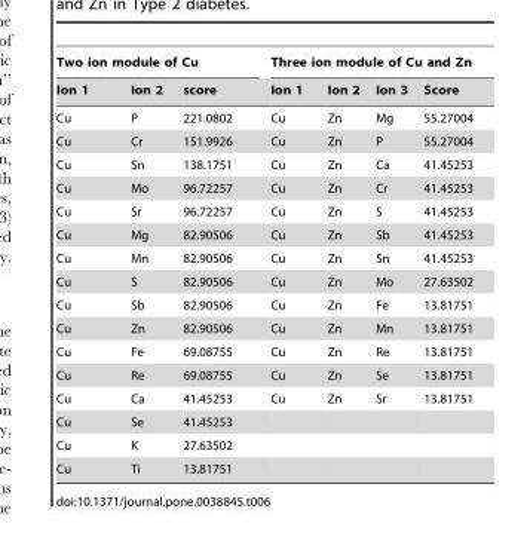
<table><thead><tr><td colspan="3">Two ion module of Cu</td><td colspan="4">Three ion module of Cu and Zn</td></tr><tr><td>Ion 1</td><td>Ion 2</td><td>score</td><td>Ion 1</td><td>Ion 2</td><td>Ion 3</td><td>Score</td></tr></thead><tbody><tr><td>Cu</td><td>P</td><td>221.0802</td><td>Cu</td><td>Zn</td><td>Mg</td><td>55.27004</td></tr><tr><td>Cu</td><td>Cr</td><td>151.9926</td><td>Cu</td><td>Zn</td><td>P</td><td>55.27004</td></tr><tr><td>Cu</td><td>Sn</td><td>138.1751</td><td>Cu</td><td>Zn</td><td>Ca</td><td>41.45253</td></tr><tr><td>Cu</td><td>Mo</td><td>96.72257</td><td>Cu</td><td>Zn</td><td>Cr</td><td>41.45253</td></tr><tr><td>Cu</td><td>Sr</td><td>96.72257</td><td>Cu</td><td>Zn</td><td>S</td><td>41.45253</td></tr><tr><td>Cu</td><td>Mg</td><td>82.90506</td><td>Cu</td><td>Zn</td><td>Sb</td><td>41.45253</td></tr><tr><td>Cu</td><td>Mn</td><td>82.90506</td><td>Cu</td><td>Zn</td><td>Sn</td><td>41.45253</td></tr><tr><td>Cu</td><td>S</td><td>82.90506</td><td>Cu</td><td>Zn</td><td>Mo</td><td>27.63502</td></tr><tr><td>Cu</td><td>Sb</td><td>82.90506</td><td>Cu</td><td>Zn</td><td>Fe</td><td>13.81751</td></tr><tr><td>Cu</td><td>Zn</td><td>82.90506</td><td>Cu</td><td>Zn</td><td>Mn</td><td>13.81751</td></tr><tr><td>Cu</td><td>Fe</td><td>69.08755</td><td>Cu</td><td>Zn</td><td>Re</td><td>13.81751</td></tr><tr><td>Cu</td><td>Re</td><td>69.08755</td><td>Cu</td><td>Zn</td><td>Se</td><td>13.81751</td></tr><tr><td>Cu</td><td>Ca</td><td>41.45253</td><td>Cu</td><td>Zn</td><td>Sr</td><td>13.81751</td></tr><tr><td>Cu</td><td>Se</td><td>41.45253</td><td></td><td></td><td></td><td></td></tr><tr><td>Cu</td><td>K</td><td>27.63502</td><td></td><td></td><td></td><td></td></tr><tr><td>Cu</td><td>Ti</td><td>13.81751</td><td></td><td></td><td></td><td></td></tr></tbody></table>